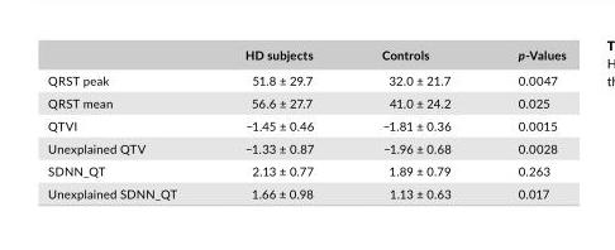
<table><thead><tr><td></td><td>HD subjects</td><td>Controls</td><td>p- Values</td></tr></thead><tbody><tr><td>QRST peak</td><td>51.8 ± 29.7</td><td>32.0 ± 21.7</td><td>0.0047</td></tr><tr><td>QRST mean</td><td>56.6 ± 27.7</td><td>41.0 ± 24.2</td><td>0.025</td></tr><tr><td>QTVI</td><td>−1.45 ± 0.46</td><td>−1.81 ± 0.36</td><td>0.0015</td></tr><tr><td>Unexplained QTV</td><td>−1.33 ± 0.87</td><td>−1.96 ± 0.68</td><td>0.0028</td></tr><tr><td>SDNN_QT</td><td>2.13 ± 0.77</td><td>1.89 ± 0.79</td><td>0.263</td></tr><tr><td>Unexplained SDNN_QT</td><td>1.66 ± 0.98</td><td>1.13 ± 0.63</td><td>0.017</td></tr></tbody></table>